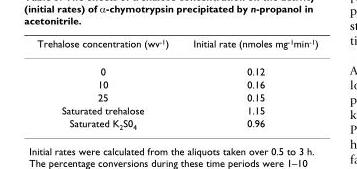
<table><thead><tr><td>Trehalose concentration (wv<sup>-1</sup>)</td><td>Initial rate (nmoles mg<sup>-1</sup>min<sup>-1</sup>)</td></tr></thead><tbody><tr><td>0</td><td>0.12</td></tr><tr><td>10</td><td>0.16</td></tr><tr><td>25</td><td>0.15</td></tr><tr><td>Saturated trehalose</td><td>1.15</td></tr><tr><td>Saturated K<sub>2</sub>S0<sub>4</sub></td><td>0.96</td></tr></tbody></table>